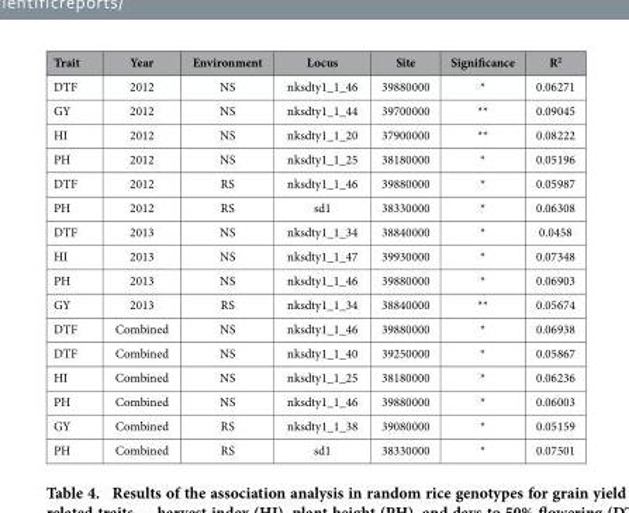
<table><thead><tr><td>Trait</td><td>Year</td><td>Environment</td><td>Locus</td><td>Site</td><td>Significance</td><td>R<sup>2</sup></td></tr></thead><tbody><tr><td>DTF</td><td>2012</td><td>NS</td><td>nksdty1_1_46</td><td>39880000</td><td>*</td><td>0.06271</td></tr><tr><td>GY</td><td>2012</td><td>NS</td><td>nksdty1_1_44</td><td>39700000</td><td>**</td><td>0.09045</td></tr><tr><td>HI</td><td>2012</td><td>NS</td><td>nksdty1_1_20</td><td>37900000</td><td>**</td><td>0.08222</td></tr><tr><td>PH</td><td>2012</td><td>NS</td><td>nksdty1_1_25</td><td>38180000</td><td>*</td><td>0.05196</td></tr><tr><td>DTF</td><td>2012</td><td>RS</td><td>nksdty1_1_46</td><td>39880000</td><td>*</td><td>0.05987</td></tr><tr><td>PH</td><td>2012</td><td>RS</td><td>sd1</td><td>38330000</td><td>*</td><td>0.06308</td></tr><tr><td>DTF</td><td>2013</td><td>NS</td><td>nksdty1_1_34</td><td>38840000</td><td>*</td><td>0.0458</td></tr><tr><td>HI</td><td>2013</td><td>NS</td><td>nksdty1_1_47</td><td>39930000</td><td>*</td><td>0.07348</td></tr><tr><td>PH</td><td>2013</td><td>NS</td><td>nksdty1_1_46</td><td>39880000</td><td>*</td><td>0.06903</td></tr><tr><td>GY</td><td>2013</td><td>RS</td><td>nksdty1_1_34</td><td>38840000</td><td>**</td><td>0.05674</td></tr><tr><td>DTF</td><td>Combined</td><td>NS</td><td>nksdty1_1_46</td><td>39880000</td><td>*</td><td>0.06938</td></tr><tr><td>DTF</td><td>Combined</td><td>NS</td><td>nksdty1_1_40</td><td>39250000</td><td>*</td><td>0.05867</td></tr><tr><td>HI</td><td>Combined</td><td>NS</td><td>nksdty1_1_25</td><td>38180000</td><td>*</td><td>0.06236</td></tr><tr><td>PH</td><td>Combined</td><td>NS</td><td>nksdty1_1_46</td><td>39880000</td><td>*</td><td>0.06003</td></tr><tr><td>GY</td><td>Combined</td><td>RS</td><td>nksdty1_1_38</td><td>39080000</td><td>*</td><td>0.05159</td></tr><tr><td>PH</td><td>Combined</td><td>RS</td><td>sd1</td><td>38330000</td><td>*</td><td>0.07501</td></tr></tbody></table>